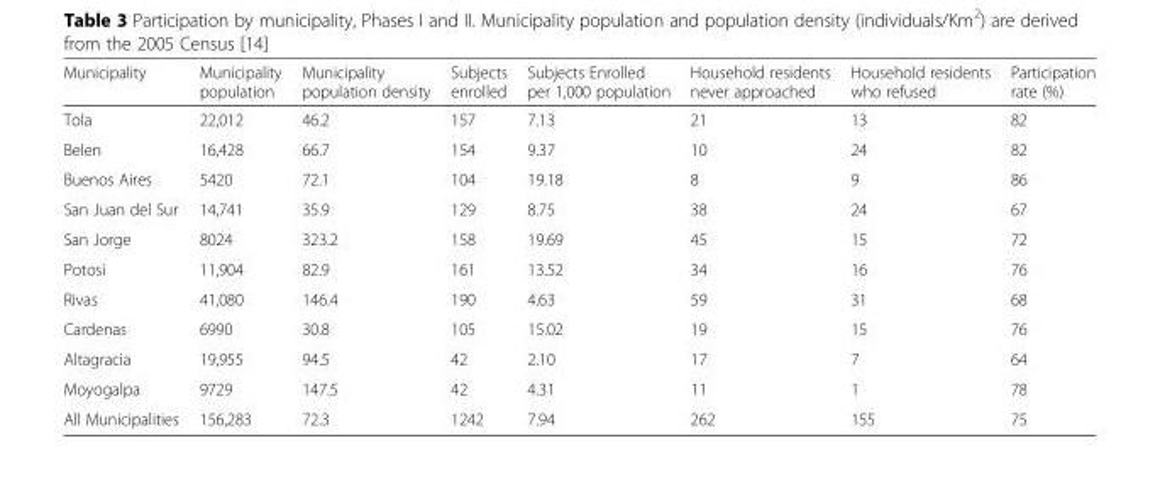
<table><thead><tr><td>Municipality</td><td>Municipality population</td><td>Municipality population density</td><td>Subjects enrolled</td><td>Subjects Enrolled per 1,000 population</td><td>Household residents never approached</td><td>Household residents who refused</td><td>Participation rate (%)</td></tr></thead><tbody><tr><td>Tola</td><td>22,012</td><td>46.2</td><td>157</td><td>7.13</td><td>21</td><td>13</td><td>82</td></tr><tr><td>Belen</td><td>16,428</td><td>66.7</td><td>154</td><td>9.37</td><td>10</td><td>24</td><td>82</td></tr><tr><td>Buenos Aires</td><td>5420</td><td>72.1</td><td>104</td><td>19.18</td><td>8</td><td>9</td><td>86</td></tr><tr><td>San Juan del Sur</td><td>14,741</td><td>35.9</td><td>129</td><td>8.75</td><td>38</td><td>24</td><td>67</td></tr><tr><td>San Jorge</td><td>8024</td><td>323.2</td><td>158</td><td>19.69</td><td>45</td><td>15</td><td>72</td></tr><tr><td>Potosi</td><td>11,904</td><td>82.9</td><td>161</td><td>13.52</td><td>34</td><td>16</td><td>76</td></tr><tr><td>Rivas</td><td>41,080</td><td>146.4</td><td>190</td><td>4.63</td><td>59</td><td>31</td><td>68</td></tr><tr><td>Cardenas</td><td>6990</td><td>30.8</td><td>105</td><td>15.02</td><td>19</td><td>15</td><td>76</td></tr><tr><td>Altagracia</td><td>19,955</td><td>94.5</td><td>42</td><td>2.10</td><td>17</td><td>7</td><td>64</td></tr><tr><td>Moyogalpa</td><td>9729</td><td>147.5</td><td>42</td><td>4.31</td><td>11</td><td>1</td><td>78</td></tr><tr><td>All Municipalities</td><td>156,283</td><td>72.3</td><td>1242</td><td>7.94</td><td>262</td><td>155</td><td>75</td></tr></tbody></table>